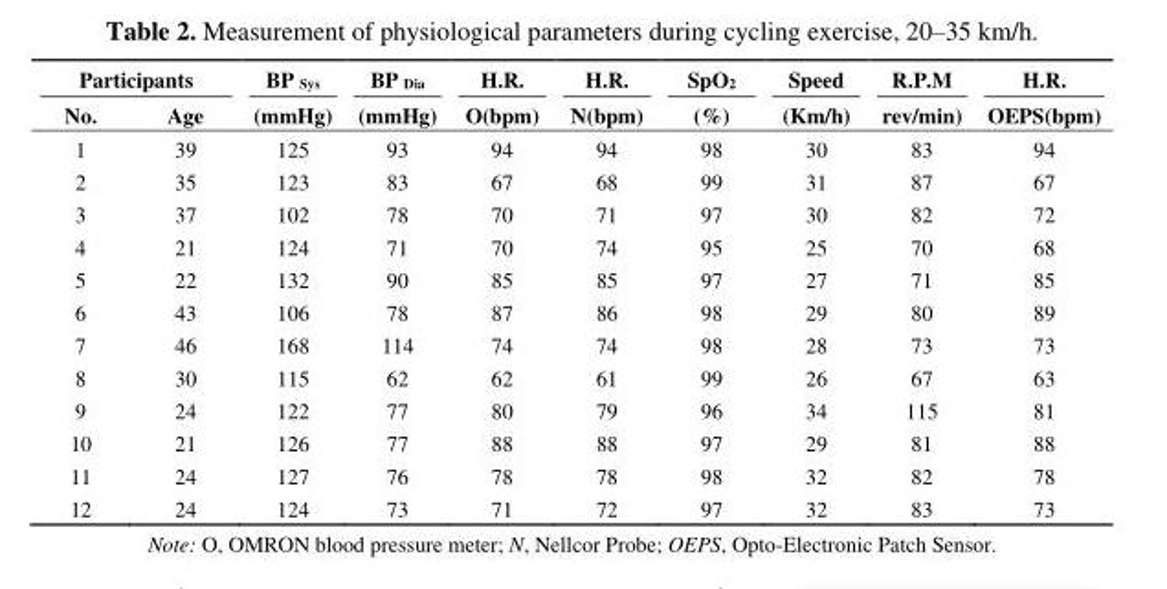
<table><thead><tr><td colspan="2">Participants</td><td rowspan="2">BP <sub>Sys</sub> (mmHg)</td><td rowspan="2">BP <sub>Dia</sub> (mmHg)</td><td rowspan="2">H.R. O(bpm)</td><td rowspan="2">H.R. N(bpm)</td><td rowspan="2">SpO<sub>2</sub> (%)</td><td rowspan="2">Speed (Km/h)</td><td rowspan="2">R.P.M rev/min)</td><td rowspan="2">H.R. OEPS(bpm)</td></tr><tr><td>No.</td><td>Age</td></tr></thead><tbody><tr><td>1</td><td>39</td><td>125</td><td>93</td><td>94</td><td>94</td><td>98</td><td>30</td><td>83</td><td>94</td></tr><tr><td>2</td><td>35</td><td>123</td><td>83</td><td>67</td><td>68</td><td>99</td><td>31</td><td>87</td><td>67</td></tr><tr><td>3</td><td>37</td><td>102</td><td>78</td><td>70</td><td>71</td><td>97</td><td>30</td><td>82</td><td>72</td></tr><tr><td>4</td><td>21</td><td>124</td><td>71</td><td>70</td><td>74</td><td>95</td><td>25</td><td>70</td><td>68</td></tr><tr><td>5</td><td>22</td><td>132</td><td>90</td><td>85</td><td>85</td><td>97</td><td>27</td><td>71</td><td>85</td></tr><tr><td>6</td><td>43</td><td>106</td><td>78</td><td>87</td><td>86</td><td>98</td><td>29</td><td>80</td><td>89</td></tr><tr><td>7</td><td>46</td><td>168</td><td>114</td><td>74</td><td>74</td><td>98</td><td>28</td><td>73</td><td>73</td></tr><tr><td>8</td><td>30</td><td>115</td><td>62</td><td>62</td><td>61</td><td>99</td><td>26</td><td>67</td><td>63</td></tr><tr><td>9</td><td>24</td><td>122</td><td>77</td><td>80</td><td>79</td><td>96</td><td>34</td><td>115</td><td>81</td></tr><tr><td>10</td><td>21</td><td>126</td><td>77</td><td>88</td><td>88</td><td>97</td><td>29</td><td>81</td><td>88</td></tr><tr><td>11</td><td>24</td><td>127</td><td>76</td><td>78</td><td>78</td><td>98</td><td>32</td><td>82</td><td>78</td></tr><tr><td>12</td><td>24</td><td>124</td><td>73</td><td>71</td><td>72</td><td>97</td><td>32</td><td>83</td><td>73</td></tr></tbody></table>